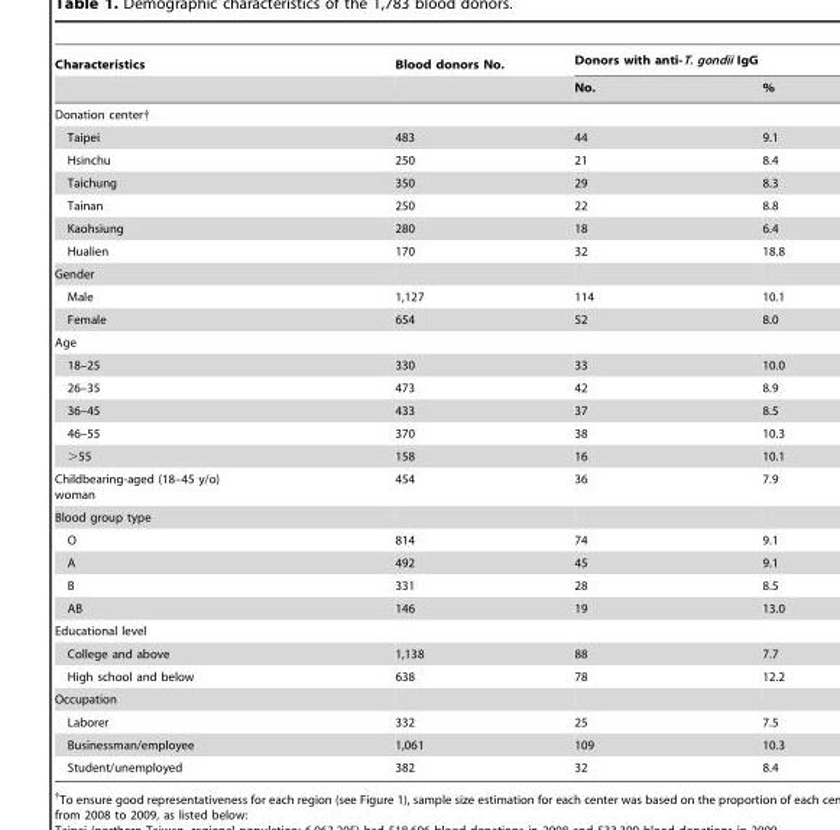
<table><thead><tr><td rowspan="2">Characteristics</td><td rowspan="2">Blood donors No.</td><td colspan="2">Donors with anti-T. gondii IgG</td></tr><tr><td>No.</td><td>%</td></tr></thead><tbody><tr><td colspan="4">Donation center†</td></tr><tr><td>Taipei</td><td>483</td><td>44</td><td>9.1</td></tr><tr><td>Hsinchu</td><td>250</td><td>21</td><td>8.4</td></tr><tr><td>Taichung</td><td>350</td><td>29</td><td>8.3</td></tr><tr><td>Tainan</td><td>250</td><td>22</td><td>8.8</td></tr><tr><td>Kaohsiung</td><td>280</td><td>18</td><td>6.4</td></tr><tr><td>Hualien</td><td>170</td><td>32</td><td>18.8</td></tr><tr><td colspan="4">Gender</td></tr><tr><td>Male</td><td>1,127</td><td>114</td><td>10.1</td></tr><tr><td>Female</td><td>654</td><td>52</td><td>8.0</td></tr><tr><td colspan="4">Age</td></tr><tr><td>18–25</td><td>330</td><td>33</td><td>10.0</td></tr><tr><td>26–35</td><td>473</td><td>42</td><td>8.9</td></tr><tr><td>36–45</td><td>433</td><td>37</td><td>8.5</td></tr><tr><td>46–55</td><td>370</td><td>38</td><td>10.3</td></tr><tr><td>&gt;55</td><td>158</td><td>16</td><td>10.1</td></tr><tr><td>Childbearing-aged (18–45 y/o) woman</td><td>454</td><td>36</td><td>7.9</td></tr><tr><td colspan="4">Blood group type</td></tr><tr><td>O</td><td>814</td><td>74</td><td>9.1</td></tr><tr><td>A</td><td>492</td><td>45</td><td>9.1</td></tr><tr><td>B</td><td>331</td><td>28</td><td>8.5</td></tr><tr><td>AB</td><td>146</td><td>19</td><td>13.0</td></tr><tr><td colspan="4">Educational level</td></tr><tr><td>College and above</td><td>1,138</td><td>88</td><td>7.7</td></tr><tr><td>High school and below</td><td>638</td><td>78</td><td>12.2</td></tr><tr><td colspan="4">Occupation</td></tr><tr><td>Laborer</td><td>332</td><td>25</td><td>7.5</td></tr><tr><td>Businessman/employee</td><td>1,061</td><td>109</td><td>10.3</td></tr><tr><td>Student/unemployed</td><td>382</td><td>32</td><td>8.4</td></tr></tbody></table>